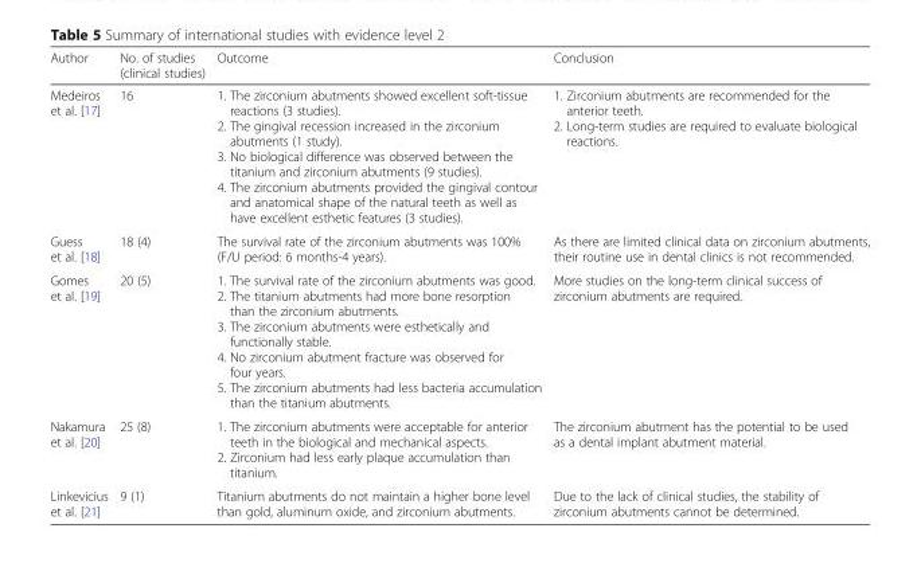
<table><thead><tr><td>Author</td><td>No. of studies (clinical studies)</td><td>Outcome</td><td>Conclusion</td></tr></thead><tbody><tr><td>Medeiros et al. [17]</td><td>16</td><td>1. The zirconium abutments showed excellent soft-tissue reactions (3 studies). 2. The gingival recession increased in the zirconium abutments (1 study). 3. No biological difference was observed between the titanium and zirconium abutments (9 studies). 4. The zirconium abutments provided the gingival contour and anatomical shape of the natural teeth as well as have excellent esthetic features (3 studies).</td><td>1. Zirconium abutments are recommended for the anterior teeth. 2. Long-term studies are required to evaluate biological reactions.</td></tr><tr><td>Guess et al. [18]</td><td>18 (4)</td><td>The survival rate of the zirconium abutments was 100% (F/U period: 6 months-4 years).</td><td>As there are limited clinical data on zirconium abutments, their routine use in dental clinics is not recommended.</td></tr><tr><td>Gomes et al. [19]</td><td>20 (5)</td><td>1. The survival rate of the zirconium abutments was good. 2. The titanium abutments had more bone resorption than the zirconium abutments. 3. The zirconium abutments were esthetically and functionally stable. 4. No zirconium abutment fracture was observed for four years. 5. The zirconium abutments had less bacteria accumulation than the titanium abutments.</td><td>More studies on the long-term clinical success of zirconium abutments are required.</td></tr><tr><td>Nakamura et al. [20]</td><td>25 (8)</td><td>1. The zirconium abutments were acceptable for anterior teeth in the biological and mechanical aspects. 2. Zirconium had less early plaque accumulation than titanium.</td><td>The zirconium abutment has the potential to be used as a dental implant abutment material.</td></tr><tr><td>Linkevicius et al. [21]</td><td>9 (1)</td><td>Titanium abutments do not maintain a higher bone level than gold, aluminum oxide, and zirconium abutments.</td><td>Due to the lack of clinical studies, the stability of zirconium abutments cannot be determined.</td></tr></tbody></table>